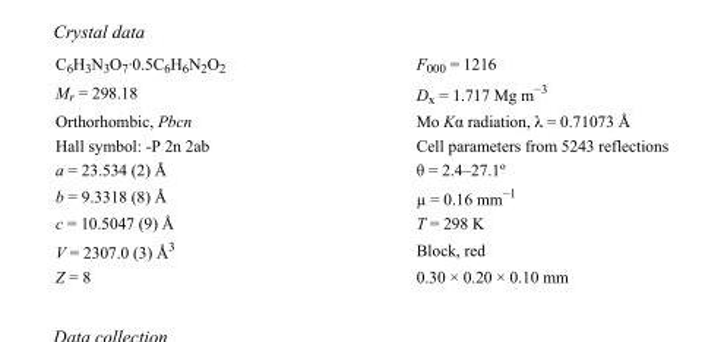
<table><tbody><tr><td>C<sub>6</sub>H<sub>3</sub>N<sub>3</sub>O<sub>7</sub>·0.5C<sub>6</sub>H<sub>6</sub>N<sub>2</sub>O<sub>2</sub></td><td>F000 = 1216</td></tr><tr><td>M<sub>r</sub> = 298.18</td><td>D<sub>x</sub> = 1.717 Mg m<sup>−3</sup></td></tr><tr><td>Orthorhombic, Pbcn</td><td>Mo Kα radiation, λ = 0.71073 Å</td></tr><tr><td>Hall symbol: -P 2n 2ab</td><td>Cell parameters from 5243 reflections</td></tr><tr><td>a = 23.534 (2) Å</td><td>θ = 2.4–27.1º</td></tr><tr><td>b = 9.3318 (8) Å</td><td>µ = 0.16 mm<sup>−1</sup></td></tr><tr><td>c = 10.5047 (9) Å</td><td>T = 298 K</td></tr><tr><td>V = 2307.0 (3) Å<sup>3</sup></td><td>Block, red</td></tr><tr><td>Z = 8</td><td>0.30 × 0.20 × 0.10 mm</td></tr></tbody></table>